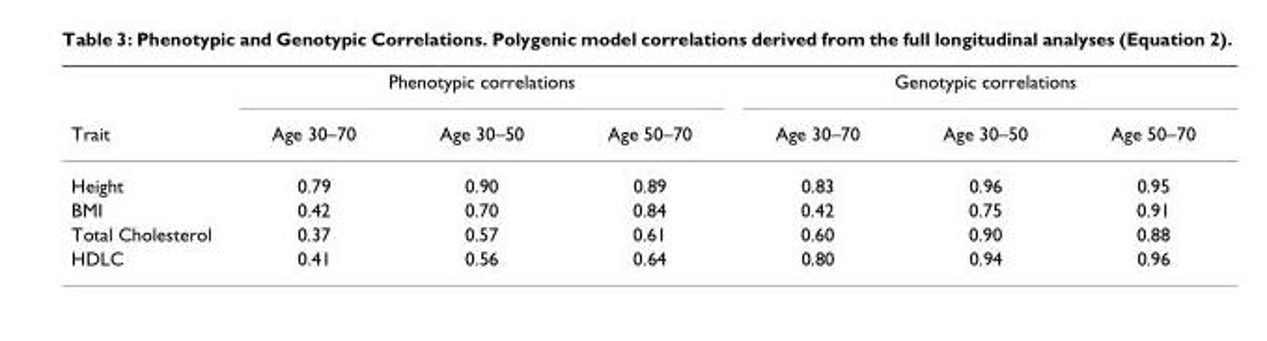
<table><thead><tr><td rowspan="2">Trait</td><td colspan="3">Phenotypic correlations</td><td colspan="3">Genotypic correlations</td></tr><tr><td>Age 30–70</td><td>Age 30–50</td><td>Age 50–70</td><td>Age 30–70</td><td>Age 30–50</td><td>Age 50–70</td></tr></thead><tbody><tr><td>Height</td><td>0.79</td><td>0.90</td><td>0.89</td><td>0.83</td><td>0.96</td><td>0.95</td></tr><tr><td>BMI</td><td>0.42</td><td>0.70</td><td>0.84</td><td>0.42</td><td>0.75</td><td>0.91</td></tr><tr><td>Total Cholesterol</td><td>0.37</td><td>0.57</td><td>0.61</td><td>0.60</td><td>0.90</td><td>0.88</td></tr><tr><td>HDLC</td><td>0.41</td><td>0.56</td><td>0.64</td><td>0.80</td><td>0.94</td><td>0.96</td></tr></tbody></table>